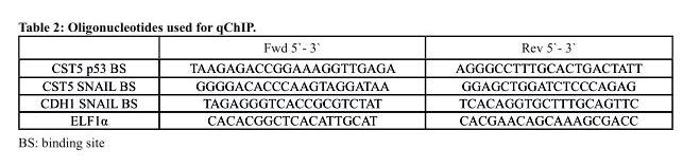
<table><thead><tr><td></td><td>Fwd 5`- 3`</td><td>Rev 5`- 3`</td></tr></thead><tbody><tr><td>CST5 p53 BS</td><td>TAAGAGACCGGAAAGGTTGAGA</td><td>AGGGCCTTTGCACTGACTATT</td></tr><tr><td>CST5 SNAIL BS</td><td>GGGGACACCCAAGTAGGATAA</td><td>GGAGCTGGATCTCCCAGAG</td></tr><tr><td>CDH1 SNAIL BS</td><td>TAGAGGGTCACCGCGTCTAT</td><td>TCACAGGTGCTTTGCAGTTC</td></tr><tr><td>ELF1α</td><td>CACACGGCTCACATTGCAT</td><td>CACGAACAGCAAAGCGACC</td></tr></tbody></table>